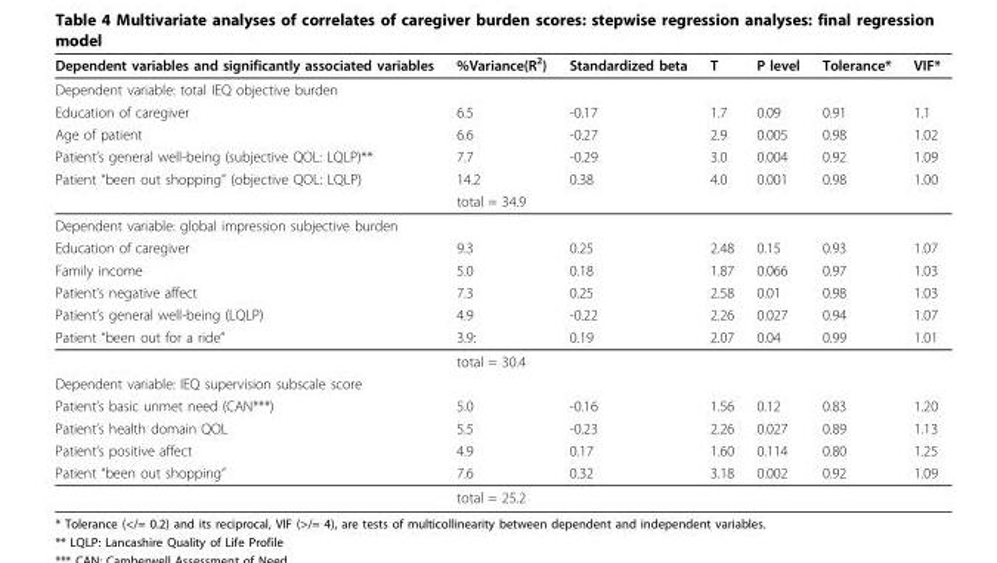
<table><thead><tr><td>Dependent variables and significantly associated variables</td><td>%Variance(R<sup>2</sup>)</td><td>Standardized beta</td><td>T</td><td>P level</td><td>Tolerance*</td><td>VIF*</td></tr></thead><tbody><tr><td colspan="7">Dependent variable: total IEQ objective burden</td></tr><tr><td>Education of caregiver</td><td>6.5</td><td>-0.17</td><td>1.7</td><td>0.09</td><td>0.91</td><td>1.1</td></tr><tr><td>Age of patient</td><td>6.6</td><td>-0.27</td><td>2.9</td><td>0.005</td><td>0.98</td><td>1.02</td></tr><tr><td>Patient’s general well-being (subjective QOL: LQLP)**</td><td>7.7</td><td>-0.29</td><td>3.0</td><td>0.004</td><td>0.92</td><td>1.09</td></tr><tr><td rowspan="2">Patient “been out shopping” (objective QOL: LQLP)</td><td>14.2</td><td>0.38</td><td>4.0</td><td>0.001</td><td>0.98</td><td>1.00</td></tr><tr><td>total = 34.9</td><td></td><td></td><td></td><td></td><td></td></tr><tr><td colspan="7">Dependent variable: global impression subjective burden</td></tr><tr><td>Education of caregiver</td><td>9.3</td><td>0.25</td><td>2.48</td><td>0.15</td><td>0.93</td><td>1.07</td></tr><tr><td>Family income</td><td>5.0</td><td>0.18</td><td>1.87</td><td>0.066</td><td>0.97</td><td>1.03</td></tr><tr><td>Patient’s negative affect</td><td>7.3</td><td>0.25</td><td>2.58</td><td>0.01</td><td>0.98</td><td>1.03</td></tr><tr><td>Patient’s general well-being (LQLP)</td><td>4.9</td><td>-0.22</td><td>2.26</td><td>0.027</td><td>0.94</td><td>1.07</td></tr><tr><td rowspan="2">Patient “been out for a ride”</td><td>3.9:</td><td>0.19</td><td>2.07</td><td>0.04</td><td>0.99</td><td>1.01</td></tr><tr><td>total = 30.4</td><td></td><td></td><td></td><td></td><td></td></tr><tr><td colspan="7">Dependent variable: IEQ supervision subscale score</td></tr><tr><td>Patient’s basic unmet need (CAN***)</td><td>5.0</td><td>-0.16</td><td>1.56</td><td>0.12</td><td>0.83</td><td>1.20</td></tr><tr><td>Patient’s health domain QOL</td><td>5.5</td><td>-0.23</td><td>2.26</td><td>0.027</td><td>0.89</td><td>1.13</td></tr><tr><td>Patient’s positive affect</td><td>4.9</td><td>0.17</td><td>1.60</td><td>0.114</td><td>0.80</td><td>1.25</td></tr><tr><td rowspan="2">Patient “been out shopping”</td><td>7.6</td><td>0.32</td><td>3.18</td><td>0.002</td><td>0.92</td><td>1.09</td></tr><tr><td>total = 25.2</td><td></td><td></td><td></td><td></td><td></td></tr></tbody></table>